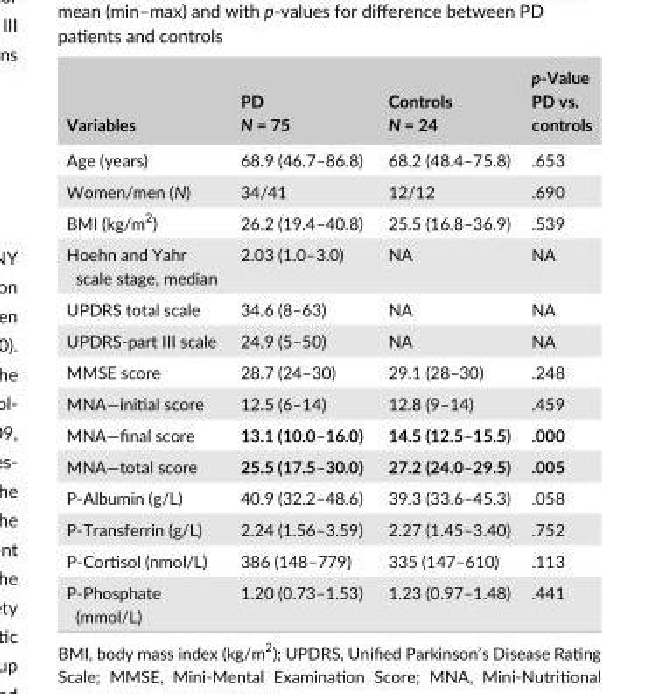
<table><thead><tr><td>Variables</td><td>PD N = 75</td><td>Controls N = 24</td><td>p- Value PD vs. controls</td></tr></thead><tbody><tr><td>Age (years)</td><td>68.9 (46.7–86.8)</td><td>68.2 (48.4–75.8)</td><td>.653</td></tr><tr><td>Women/men (N)</td><td>34/41</td><td>12/12</td><td>.690</td></tr><tr><td>BMI (kg/m<sup>2</sup>)</td><td>26.2 (19.4–40.8)</td><td>25.5 (16.8–36.9)</td><td>.539</td></tr><tr><td>Hoehn and Yahr scale stage, median</td><td>2.03 (1.0–3.0)</td><td>NA</td><td>NA</td></tr><tr><td>UPDRS total scale</td><td>34.6 (8–63)</td><td>NA</td><td>NA</td></tr><tr><td>UPDRS- part III scale</td><td>24.9 (5–50)</td><td>NA</td><td>NA</td></tr><tr><td>MMSE score</td><td>28.7 (24–30)</td><td>29.1 (28–30)</td><td>.248</td></tr><tr><td>MNA—initial score</td><td>12.5 (6–14)</td><td>12.8 (9–14)</td><td>.459</td></tr><tr><td>MNA—final score</td><td>13.1 (10.0–16.0)</td><td>14.5 (12.5–15.5)</td><td>.000</td></tr><tr><td>MNA—total score</td><td>25.5 (17.5–30.0)</td><td>27.2 (24.0–29.5)</td><td>.005</td></tr><tr><td>P- Albumin (g/L)</td><td>40.9 (32.2–48.6)</td><td>39.3 (33.6–45.3)</td><td>.058</td></tr><tr><td>P- Transferrin (g/L)</td><td>2.24 (1.56–3.59)</td><td>2.27 (1.45–3.40)</td><td>.752</td></tr><tr><td>P- Cortisol (nmol/L)</td><td>386 (148–779)</td><td>335 (147–610)</td><td>.113</td></tr><tr><td>P- Phosphate (mmol/L)</td><td>1.20 (0.73–1.53)</td><td>1.23 (0.97–1.48)</td><td>.441</td></tr></tbody></table>